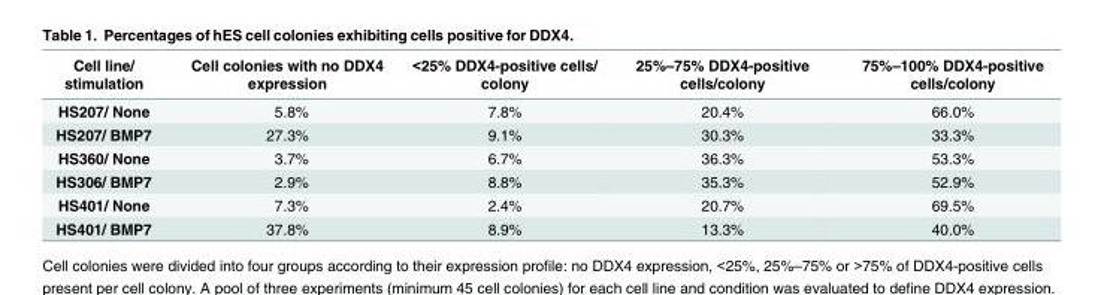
<table><thead><tr><td>Cell line/ stimulation</td><td>Cell colonies with no DDX4 expression</td><td>&lt;25% DDX4-positive cells/ colony</td><td>25%–75% DDX4-positive cells/colony</td><td>75%–100% DDX4-positive cells/colony</td></tr></thead><tbody><tr><td>HS207/ None</td><td>5.8%</td><td>7.8%</td><td>20.4%</td><td>66.0%</td></tr><tr><td>HS207/ BMP7</td><td>27.3%</td><td>9.1%</td><td>30.3%</td><td>33.3%</td></tr><tr><td>HS360/ None</td><td>3.7%</td><td>6.7%</td><td>36.3%</td><td>53.3%</td></tr><tr><td>HS306/ BMP7</td><td>2.9%</td><td>8.8%</td><td>35.3%</td><td>52.9%</td></tr><tr><td>HS401/ None</td><td>7.3%</td><td>2.4%</td><td>20.7%</td><td>69.5%</td></tr><tr><td>HS401/ BMP7</td><td>37.8%</td><td>8.9%</td><td>13.3%</td><td>40.0%</td></tr></tbody></table>